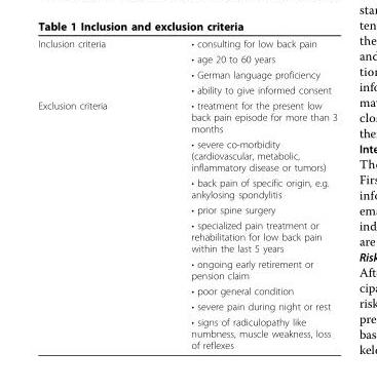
<table><tbody><tr><td rowspan="4">Inclusion criteria</td><td>• consulting for low back pain</td></tr><tr><td>• age 20 to 60 years</td></tr><tr><td>• German language proficiency</td></tr><tr><td>• ability to give informed consent</td></tr><tr><td rowspan="9">Exclusion criteria</td><td>• treatment for the present low back pain episode for more than 3 months</td></tr><tr><td>• severe co-morbidity (cardiovascular, metabolic, inflammatory disease or tumors)</td></tr><tr><td>• back pain of specific origin, e.g. ankylosing spondylitis</td></tr><tr><td>• prior spine surgery</td></tr><tr><td>• specialized pain treatment or rehabilitation for low back pain within the last 5 years</td></tr><tr><td>• ongoing early retirement or pension claim</td></tr><tr><td>• poor general condition</td></tr><tr><td>• severe pain during night or rest</td></tr><tr><td>• signs of radiculopathy like numbness, muscle weakness, loss of reflexes</td></tr></tbody></table>